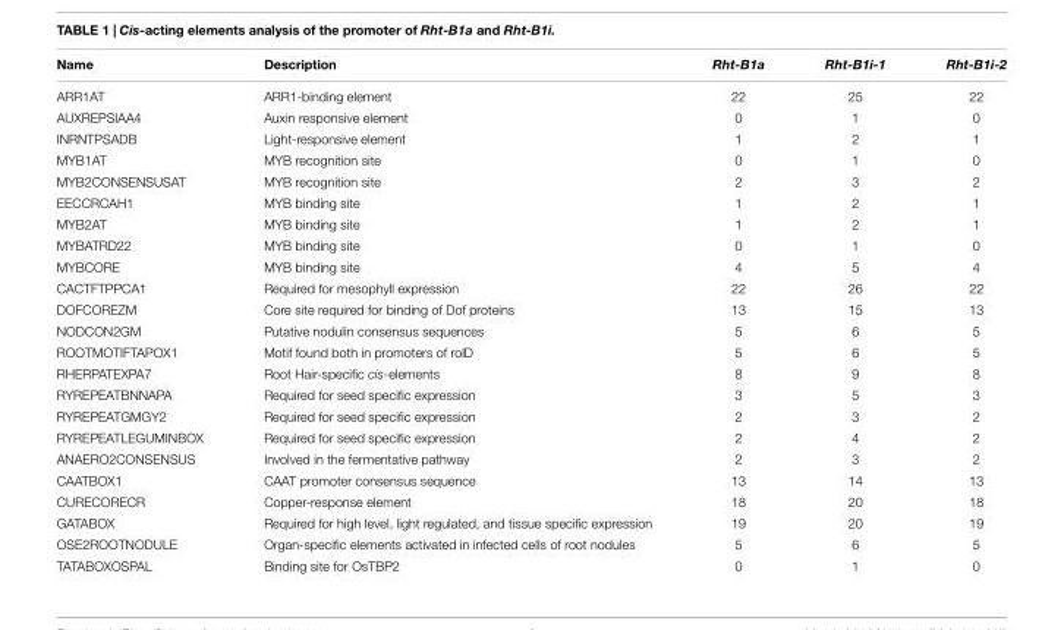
<table><thead><tr><td>Name</td><td>Description</td><td>Rht-B1a</td><td>Rht-B1i-1</td><td>Rht-B1i-2</td></tr></thead><tbody><tr><td>ARR1AT</td><td>ARR1-binding element</td><td>22</td><td>25</td><td>22</td></tr><tr><td>AUXREPSIAA4</td><td>Auxin responsive element</td><td>0</td><td>1</td><td>0</td></tr><tr><td>INRNTPSADB</td><td>Light-responsive element</td><td>1</td><td>2</td><td>1</td></tr><tr><td>MYB1AT</td><td>MYB recognition site</td><td>0</td><td>1</td><td>0</td></tr><tr><td>MYB2CONSENSUSAT</td><td>MYB recognition site</td><td>2</td><td>3</td><td>2</td></tr><tr><td>EECCRCAH1</td><td>MYB binding site</td><td>1</td><td>2</td><td>1</td></tr><tr><td>MYB2AT</td><td>MYB binding site</td><td>1</td><td>2</td><td>1</td></tr><tr><td>MYBATRD22</td><td>MYB binding site</td><td>0</td><td>1</td><td>0</td></tr><tr><td>MYBCORE</td><td>MYB binding site</td><td>4</td><td>5</td><td>4</td></tr><tr><td>CACTFTPPCA1</td><td>Required for mesophyll expression</td><td>22</td><td>26</td><td>22</td></tr><tr><td>DOFCOREZM</td><td>Core site required for binding of Dof proteins</td><td>13</td><td>15</td><td>13</td></tr><tr><td>NODCON2GM</td><td>Putative nodulin consensus sequences</td><td>5</td><td>6</td><td>5</td></tr><tr><td>ROOTMOTIFTAPOX1</td><td>Motif found both in promoters of rolD</td><td>5</td><td>6</td><td>5</td></tr><tr><td>RHERPATEXPA7</td><td>Root Hair-specific cis-elements</td><td>8</td><td>9</td><td>8</td></tr><tr><td>RYREPEATBNNAPA</td><td>Required for seed specific expression</td><td>3</td><td>5</td><td>3</td></tr><tr><td>RYREPEATGMGY2</td><td>Required for seed specific expression</td><td>2</td><td>3</td><td>2</td></tr><tr><td>RYREPEATLEGUMINBOX</td><td>Required for seed specific expression</td><td>2</td><td>4</td><td>2</td></tr><tr><td>ANAERO2CONSENSUS</td><td>Involved in the fermentative pathway</td><td>2</td><td>3</td><td>2</td></tr><tr><td>CAATBOX1</td><td>CAAT promoter consensus sequence</td><td>13</td><td>14</td><td>13</td></tr><tr><td>CURECORECR</td><td>Copper-response element</td><td>18</td><td>20</td><td>18</td></tr><tr><td>GATABOX</td><td>Required for high level, light regulated, and tissue specific expression</td><td>19</td><td>20</td><td>19</td></tr><tr><td>OSE2ROOTNODULE</td><td>Organ-specific elements activated in infected cells of root nodules</td><td>5</td><td>6</td><td>5</td></tr><tr><td>TATABOXOSPAL</td><td>Binding site for OsTBP2</td><td>0</td><td>1</td><td>0</td></tr></tbody></table>